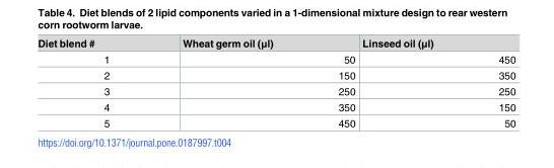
<table><thead><tr><td>Diet blend #</td><td>Wheat germ oil (μl)</td><td>Linseed oil (μl)</td></tr></thead><tbody><tr><td>1</td><td>50</td><td>450</td></tr><tr><td>2</td><td>150</td><td>350</td></tr><tr><td>3</td><td>250</td><td>250</td></tr><tr><td>4</td><td>350</td><td>150</td></tr><tr><td>5</td><td>450</td><td>50</td></tr></tbody></table>